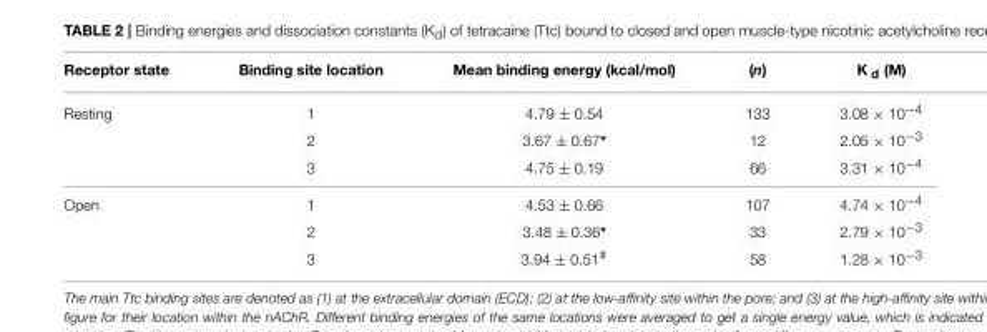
<table><thead><tr><td>Receptor state</td><td>Binding site location</td><td>Mean binding energy (kcal/mol)</td><td>(n)</td><td>K <sub>d</sub> (M)</td></tr></thead><tbody><tr><td rowspan="3">Resting</td><td>1</td><td>4.79 ± 0.54</td><td>133</td><td>3.08 × 10<sup>−4</sup></td></tr><tr><td>2</td><td>3.67 ± 0.67*</td><td>12</td><td>2.05 × 10<sup>−3</sup></td></tr><tr><td>3</td><td>4.75 ± 0.19</td><td>66</td><td>3.31 × 10<sup>−4</sup></td></tr><tr><td rowspan="3">Open</td><td>1</td><td>4.53 ± 0.66</td><td>107</td><td>4.74 × 10<sup>−4</sup></td></tr><tr><td>2</td><td>3.48 ± 0.36*</td><td>33</td><td>2.79 × 10<sup>−3</sup></td></tr><tr><td>3</td><td>3.94 ± 0.51<sup>#</sup></td><td>58</td><td>1.28 × 10<sup>−3</sup></td></tr></tbody></table>